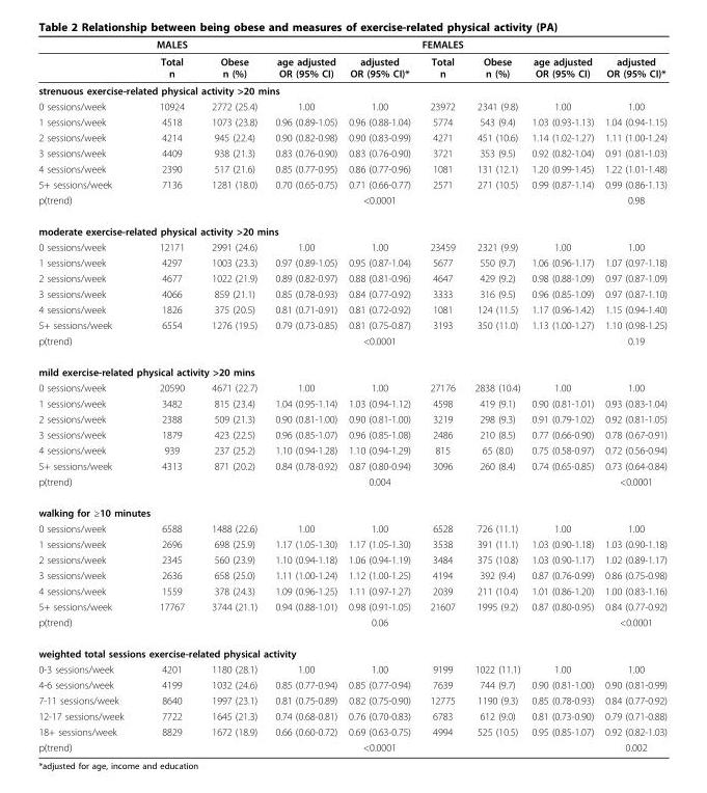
<table><thead><tr><td></td><td>MALES</td><td></td><td></td><td></td><td>FEMALES</td><td></td><td></td><td></td></tr></thead><tbody><tr><td></td><td>Total n</td><td>Obese n (%)</td><td>age adjusted OR (95% CI)</td><td>adjusted OR (95% CI)*</td><td>Total n</td><td>Obese n (%)</td><td>age adjusted OR (95% CI)</td><td>adjusted OR (95% CI)*</td></tr><tr><td colspan="9">strenuous exercise-related physical activity &gt;20 mins</td></tr><tr><td>0 sessions/week</td><td>10924</td><td>2772 (25.4)</td><td>1.00</td><td>1.00</td><td>23972</td><td>2341 (9.8)</td><td>1.00</td><td>1.00</td></tr><tr><td>1 sessions/week</td><td>4518</td><td>1073 (23.8)</td><td>0.96 (0.89-1.05)</td><td>0.96 (0.88-1.04)</td><td>5774</td><td>543 (9.4)</td><td>1.03 (0.93-1.13)</td><td>1.04 (0.94-1.15)</td></tr><tr><td>2 sessions/week</td><td>4214</td><td>945 (22.4)</td><td>0.90 (0.82-0.98)</td><td>0.90 (0.83-0.99)</td><td>4271</td><td>451 (10.6)</td><td>1.14 (1.02-1.27)</td><td>1.11 (1.00-1.24)</td></tr><tr><td>3 sessions/week</td><td>4409</td><td>938 (21.3)</td><td>0.83 (0.76-0.90)</td><td>0.83 (0.76-0.90)</td><td>3721</td><td>353 (9.5)</td><td>0.92 (0.82-1.04)</td><td>0.91 (0.81-1.03)</td></tr><tr><td>4 sessions/week</td><td>2390</td><td>517 (21.6)</td><td>0.85 (0.77-0.95)</td><td>0.86 (0.77-0.96)</td><td>1081</td><td>131 (12.1)</td><td>1.20 (0.99-1.45)</td><td>1.22 (1.01-1.48)</td></tr><tr><td>5+ sessions/week</td><td>7136</td><td>1281 (18.0)</td><td>0.70 (0.65-0.75)</td><td>0.71 (0.66-0.77)</td><td>2571</td><td>271 (10.5)</td><td>0.99 (0.87-1.14)</td><td>0.99 (0.86-1.13)</td></tr><tr><td>p(trend)</td><td></td><td></td><td></td><td>&lt;0.0001</td><td></td><td></td><td></td><td>0.98</td></tr><tr><td colspan="9">moderate exercise-related physical activity &gt;20 mins</td></tr><tr><td>0 sessions/week</td><td>12171</td><td>2991 (24.6)</td><td>1.00</td><td>1.00</td><td>23459</td><td>2321 (9.9)</td><td>1.00</td><td>1.00</td></tr><tr><td>1 sessions/week</td><td>4297</td><td>1003 (23.3)</td><td>0.97 (0.89-1.05)</td><td>0.95 (0.87-1.04)</td><td>5677</td><td>550 (9.7)</td><td>1.06 (0.96-1.17)</td><td>1.07 (0.97-1.18)</td></tr><tr><td>2 sessions/week</td><td>4677</td><td>1022 (21.9)</td><td>0.89 (0.82-0.97)</td><td>0.88 (0.81-0.96)</td><td>4647</td><td>429 (9.2)</td><td>0.98 (0.88-1.09)</td><td>0.97 (0.87-1.09)</td></tr><tr><td>3 sessions/week</td><td>4066</td><td>859 (21.1)</td><td>0.85 (0.78-0.93)</td><td>0.84 (0.77-0.92)</td><td>3333</td><td>316 (9.5)</td><td>0.96 (0.85-1.09)</td><td>0.97 (0.87-1.10)</td></tr><tr><td>4 sessions/week</td><td>1826</td><td>375 (20.5)</td><td>0.81 (0.71-0.91)</td><td>0.81 (0.72-0.92)</td><td>1081</td><td>124 (11.5)</td><td>1.17 (0.96-1.42)</td><td>1.15 (0.94-1.40)</td></tr><tr><td>5+ sessions/week</td><td>6554</td><td>1276 (19.5)</td><td>0.79 (0.73-0.85)</td><td>0.81 (0.75-0.87)</td><td>3193</td><td>350 (11.0)</td><td>1.13 (1.00-1.27)</td><td>1.10 (0.98-1.25)</td></tr><tr><td>p(trend)</td><td></td><td></td><td></td><td>&lt;0.0001</td><td></td><td></td><td></td><td>0.19</td></tr><tr><td colspan="9">mild exercise-related physical activity &gt;20 mins</td></tr><tr><td>0 sessions/week</td><td>20590</td><td>4671 (22.7)</td><td>1.00</td><td>1.00</td><td>27176</td><td>2838 (10.4)</td><td>1.00</td><td>1.00</td></tr><tr><td>1 sessions/week</td><td>3482</td><td>815 (23.4)</td><td>1.04 (0.95-1.14)</td><td>1.03 (0.94-1.12)</td><td>4598</td><td>419 (9.1)</td><td>0.90 (0.81-1.01)</td><td>0.93 (0.83-1.04)</td></tr><tr><td>2 sessions/week</td><td>2388</td><td>509 (21.3)</td><td>0.90 (0.81-1.00)</td><td>0.90 (0.81-1.00)</td><td>3219</td><td>298 (9.3)</td><td>0.91 (0.79-1.02)</td><td>0.92 (0.81-1.05)</td></tr><tr><td>3 sessions/week</td><td>1879</td><td>423 (22.5)</td><td>0.96 (0.85-1.07)</td><td>0.96 (0.85-1.08)</td><td>2486</td><td>210 (8.5)</td><td>0.77 (0.66-0.90)</td><td>0.78 (0.67-0.91)</td></tr><tr><td>4 sessions/week</td><td>939</td><td>237 (25.2)</td><td>1.10 (0.94-1.28)</td><td>1.10 (0.94-1.29)</td><td>815</td><td>65 (8.0)</td><td>0.75 (0.58-0.97)</td><td>0.72 (0.56-0.94)</td></tr><tr><td>5+ sessions/week</td><td>4313</td><td>871 (20.2)</td><td>0.84 (0.78-0.92)</td><td>0.87 (0.80-0.94)</td><td>3096</td><td>260 (8.4)</td><td>0.74 (0.65-0.85)</td><td>0.73 (0.64-0.84)</td></tr><tr><td>p(trend)</td><td></td><td></td><td></td><td>0.004</td><td></td><td></td><td></td><td>&lt;0.0001</td></tr><tr><td colspan="9">walking for ≥10 minutes</td></tr><tr><td>0 sessions/week</td><td>6588</td><td>1488 (22.6)</td><td>1.00</td><td>1.00</td><td>6528</td><td>726 (11.1)</td><td>1.00</td><td>1.00</td></tr><tr><td>1 sessions/week</td><td>2696</td><td>698 (25.9)</td><td>1.17 (1.05-1.30)</td><td>1.17 (1.05-1.30)</td><td>3538</td><td>391 (11.1)</td><td>1.03 (0.90-1.18)</td><td>1.03 (0.90-1.18)</td></tr><tr><td>2 sessions/week</td><td>2345</td><td>560 (23.9)</td><td>1.10 (0.94-1.18)</td><td>1.06 (0.94-1.19)</td><td>3484</td><td>375 (10.8)</td><td>1.03 (0.90-1.17)</td><td>1.02 (0.89-1.17)</td></tr><tr><td>3 sessions/week</td><td>2636</td><td>658 (25.0)</td><td>1.11 (1.00-1.24)</td><td>1.12 (1.00-1.25)</td><td>4194</td><td>392 (9.4)</td><td>0.87 (0.76-0.99)</td><td>0.86 (0.75-0.98)</td></tr><tr><td>4 sessions/week</td><td>1559</td><td>378 (24.3)</td><td>1.09 (0.96-1.25)</td><td>1.11 (0.97-1.27)</td><td>2039</td><td>211 (10.4)</td><td>1.01 (0.86-1.20)</td><td>1.00 (0.83-1.16)</td></tr><tr><td>5+ sessions/week</td><td>17767</td><td>3744 (21.1)</td><td>0.94 (0.88-1.01)</td><td>0.98 (0.91-1.05)</td><td>21607</td><td>1995 (9.2)</td><td>0.87 (0.80-0.95)</td><td>0.84 (0.77-0.92)</td></tr><tr><td>p(trend)</td><td></td><td></td><td></td><td>0.06</td><td></td><td></td><td></td><td>&lt;0.0001</td></tr><tr><td colspan="9">weighted total sessions exercise-related physical activity</td></tr><tr><td>0-3 sessions/week</td><td>4201</td><td>1180 (28.1)</td><td>1.00</td><td>1.00</td><td>9199</td><td>1022 (11.1)</td><td>1.00</td><td>1.00</td></tr><tr><td>4-6 sessions/week</td><td>4199</td><td>1032 (24.6)</td><td>0.85 (0.77-0.94)</td><td>0.85 (0.77-0.94)</td><td>7639</td><td>744 (9.7)</td><td>0.90 (0.81-1.00)</td><td>0.90 (0.81-0.99)</td></tr><tr><td>7-11 sessions/week</td><td>8640</td><td>1997 (23.1)</td><td>0.81 (0.75-0.89)</td><td>0.82 (0.75-0.90)</td><td>12775</td><td>1190 (9.3)</td><td>0.85 (0.78-0.93)</td><td>0.84 (0.77-0.92)</td></tr><tr><td>12-17 sessions/week</td><td>7722</td><td>1645 (21.3)</td><td>0.74 (0.68-0.81)</td><td>0.76 (0.70-0.83)</td><td>6783</td><td>612 (9.0)</td><td>0.81 (0.73-0.90)</td><td>0.79 (0.71-0.88)</td></tr><tr><td>18+ sessions/week</td><td>8829</td><td>1672 (18.9)</td><td>0.66 (0.60-0.72)</td><td>0.69 (0.63-0.75)</td><td>4994</td><td>525 (10.5)</td><td>0.95 (0.85-1.07)</td><td>0.92 (0.82-1.03)</td></tr><tr><td>p(trend)</td><td></td><td></td><td></td><td>&lt;0.0001</td><td></td><td></td><td></td><td>0.002</td></tr></tbody></table>